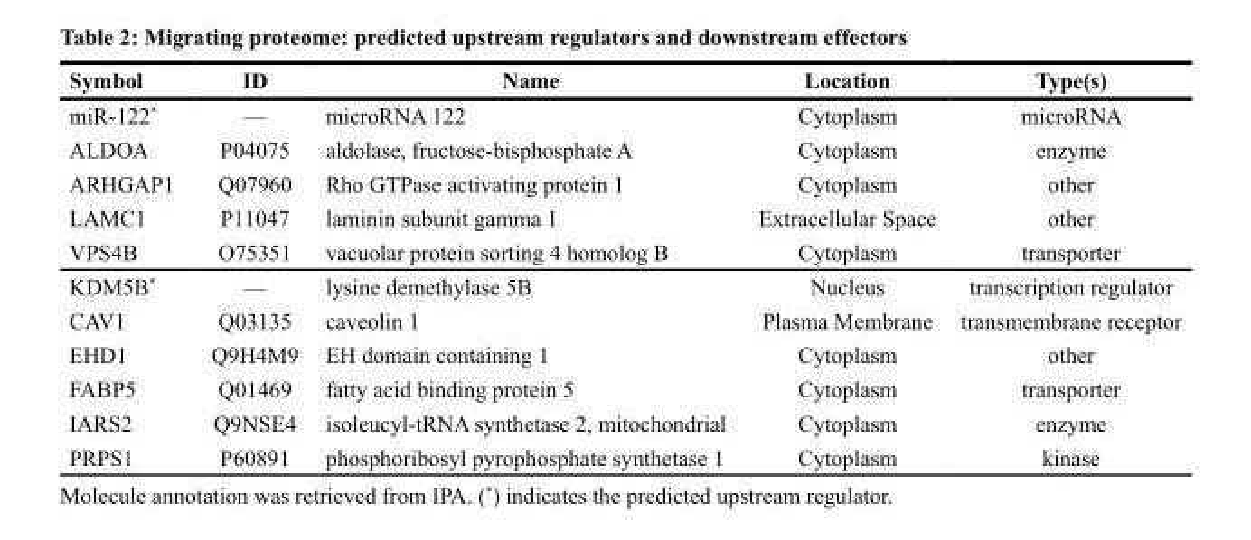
<table><thead><tr><td>Symbol</td><td>ID</td><td>Name</td><td>Location</td><td>Type(s)</td></tr></thead><tbody><tr><td>miR-122*</td><td>—</td><td>microRNA 122</td><td>Cytoplasm</td><td>microRNA</td></tr><tr><td>ALDOA</td><td>P04075</td><td>aldolase, fructose-bisphosphate A</td><td>Cytoplasm</td><td>enzyme</td></tr><tr><td>ARHGAP1</td><td>Q07960</td><td>Rho GTPase activating protein 1</td><td>Cytoplasm</td><td>other</td></tr><tr><td>LAMC1</td><td>P11047</td><td>laminin subunit gamma 1</td><td>Extracellular Space</td><td>other</td></tr><tr><td>VPS4B</td><td>O75351</td><td>vacuolar protein sorting 4 homolog B</td><td>Cytoplasm</td><td>transporter</td></tr><tr><td>KDM5B*</td><td>—</td><td>lysine demethylase 5B</td><td>Nucleus</td><td>transcription regulator</td></tr><tr><td>CAV1</td><td>Q03135</td><td>caveolin 1</td><td>Plasma Membrane</td><td>transmembrane receptor</td></tr><tr><td>EHD1</td><td>Q9H4M9</td><td>EH domain containing 1</td><td>Cytoplasm</td><td>other</td></tr><tr><td>FABP5</td><td>Q01469</td><td>fatty acid binding protein 5</td><td>Cytoplasm</td><td>transporter</td></tr><tr><td>IARS2</td><td>Q9NSE4</td><td>isoleucyl-tRNA synthetase 2, mitochondrial</td><td>Cytoplasm</td><td>enzyme</td></tr><tr><td>PRPS1</td><td>P60891</td><td>phosphoribosyl pyrophosphate synthetase 1</td><td>Cytoplasm</td><td>kinase</td></tr></tbody></table>